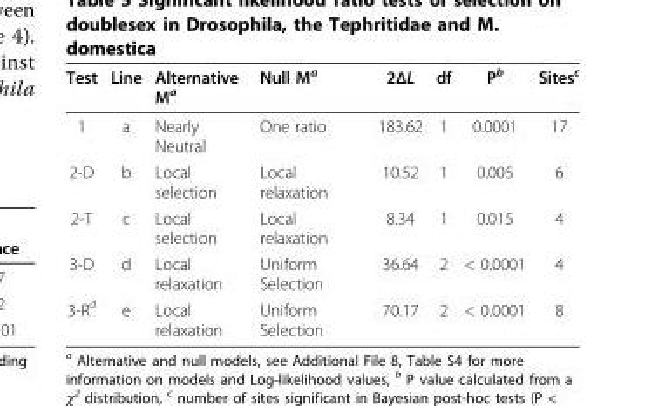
<table><thead><tr><td>Test</td><td>Line</td><td>Alternative M<sup>a</sup></td><td>Null M<sup>a</sup></td><td>2ΔL</td><td>df</td><td>P<sup>b</sup></td><td>Sites<sup>c</sup></td></tr></thead><tbody><tr><td>1</td><td>a</td><td>Nearly Neutral</td><td>One ratio</td><td>183.62</td><td>1</td><td>0.0001</td><td>17</td></tr><tr><td>2-D</td><td>b</td><td>Local selection</td><td>Local relaxation</td><td>10.52</td><td>1</td><td>0.005</td><td>6</td></tr><tr><td>2-T</td><td>c</td><td>Local selection</td><td>Local relaxation</td><td>8.34</td><td>1</td><td>0.015</td><td>4</td></tr><tr><td>3-D</td><td>d</td><td>Local relaxation</td><td>Uniform Selection</td><td>36.64</td><td>2</td><td>&lt; 0.0001</td><td>4</td></tr><tr><td>3-R<sup>d</sup></td><td>e</td><td>Local relaxation</td><td>Uniform Selection</td><td>70.17</td><td>2</td><td>&lt; 0.0001</td><td>8</td></tr></tbody></table>